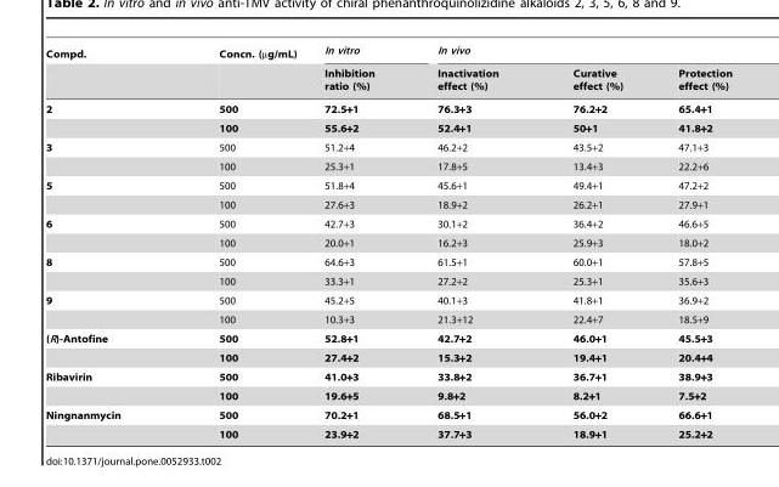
<table><thead><tr><td rowspan="2">Compd.</td><td rowspan="2">Concn. (µg/mL)</td><td rowspan="2">In vitro Inhibition ratio (%)</td><td colspan="3">In vivo</td></tr><tr><td>Inactivation effect (%)</td><td>Curative effect (%)</td><td>Protection effect (%)</td></tr></thead><tbody><tr><td rowspan="2">2</td><td>500</td><td>72.5+1</td><td>76.3+3</td><td>76.2+2</td><td>65.4+1</td></tr><tr><td>100</td><td>55.6+2</td><td>52.4+1</td><td>50+1</td><td>41.8+2</td></tr><tr><td rowspan="2">3</td><td>500</td><td>51.2+4</td><td>46.2+2</td><td>43.5+2</td><td>47.1+3</td></tr><tr><td>100</td><td>25.3+1</td><td>17.8+5</td><td>13.4+3</td><td>22.2+6</td></tr><tr><td rowspan="2">5</td><td>500</td><td>51.8+4</td><td>45.6+1</td><td>49.4+1</td><td>47.2+2</td></tr><tr><td>100</td><td>27.6+3</td><td>18.9+2</td><td>26.2+1</td><td>27.9+1</td></tr><tr><td rowspan="2">6</td><td>500</td><td>42.7+3</td><td>30.1+2</td><td>36.4+2</td><td>46.6+5</td></tr><tr><td>100</td><td>20.0+1</td><td>16.2+3</td><td>25.9+3</td><td>18.0+2</td></tr><tr><td rowspan="2">8</td><td>500</td><td>64.6+3</td><td>61.5+1</td><td>60.0+1</td><td>57.8+5</td></tr><tr><td>100</td><td>33.3+1</td><td>27.2+2</td><td>25.3+1</td><td>35.6+3</td></tr><tr><td rowspan="2">9</td><td>500</td><td>45.2+5</td><td>40.1+3</td><td>41.8+1</td><td>36.9+2</td></tr><tr><td>100</td><td>10.3+3</td><td>21.3+12</td><td>22.4+7</td><td>18.5+9</td></tr><tr><td rowspan="2">(R)-Antofine</td><td>500</td><td>52.8+1</td><td>42.7+2</td><td>46.0+1</td><td>45.5+3</td></tr><tr><td>100</td><td>27.4+2</td><td>15.3+2</td><td>19.4+1</td><td>20.4+4</td></tr><tr><td rowspan="2">Ribavirin</td><td>500</td><td>41.0+3</td><td>33.8+2</td><td>36.7+1</td><td>38.9+3</td></tr><tr><td>100</td><td>19.6+5</td><td>9.8+2</td><td>8.2+1</td><td>7.5+2</td></tr><tr><td rowspan="2">Ningnanmycin</td><td>500</td><td>70.2+1</td><td>68.5+1</td><td>56.0+2</td><td>66.6+1</td></tr><tr><td>100</td><td>23.9+2</td><td>37.7+3</td><td>18.9+1</td><td>25.2+2</td></tr></tbody></table>